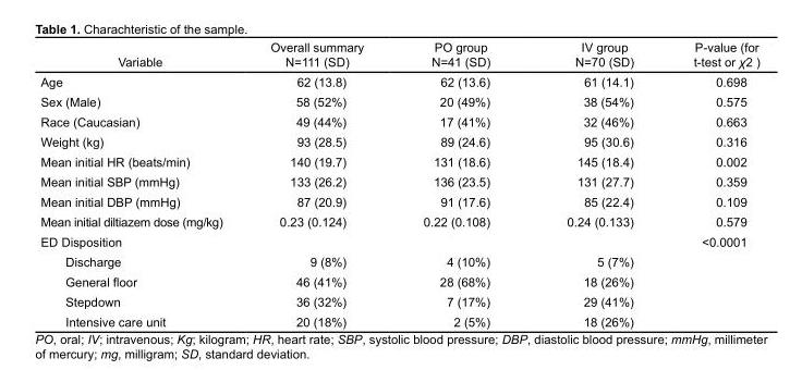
<table><thead><tr><td>Variable</td><td>Overall summary N=111 (SD)</td><td>PO group N=41 (SD)</td><td>IV group N=70 (SD)</td><td>P-value (for t-test or χ2 )</td></tr></thead><tbody><tr><td>Age</td><td>62 (13.8)</td><td>62 (13.6)</td><td>61 (14.1)</td><td>0.698</td></tr><tr><td>Sex (Male)</td><td>58 (52%)</td><td>20 (49%)</td><td>38 (54%)</td><td>0.575</td></tr><tr><td>Race (Caucasian)</td><td>49 (44%)</td><td>17 (41%)</td><td>32 (46%)</td><td>0.663</td></tr><tr><td>Weight (kg)</td><td>93 (28.5)</td><td>89 (24.6)</td><td>95 (30.6)</td><td>0.316</td></tr><tr><td>Mean initial HR (beats/min)</td><td>140 (19.7)</td><td>131 (18.6)</td><td>145 (18.4)</td><td>0.002</td></tr><tr><td>Mean initial SBP (mmHg)</td><td>133 (26.2)</td><td>136 (23.5)</td><td>131 (27.7)</td><td>0.359</td></tr><tr><td>Mean initial DBP (mmHg)</td><td>87 (20.9)</td><td>91 (17.6)</td><td>85 (22.4)</td><td>0.109</td></tr><tr><td>Mean initial diltiazem dose (mg/kg)</td><td>0.23 (0.124)</td><td>0.22 (0.108)</td><td>0.24 (0.133)</td><td>0.579</td></tr><tr><td>ED Disposition</td><td></td><td></td><td></td><td>&lt;0.0001</td></tr><tr><td>Discharge</td><td>9 (8%)</td><td>4 (10%)</td><td>5 (7%)</td><td></td></tr><tr><td>General floor</td><td>46 (41%)</td><td>28 (68%)</td><td>18 (26%)</td><td></td></tr><tr><td>Stepdown</td><td>36 (32%)</td><td>7 (17%)</td><td>29 (41%)</td><td></td></tr><tr><td>Intensive care unit</td><td>20 (18%)</td><td>2 (5%)</td><td>18 (26%)</td><td></td></tr></tbody></table>